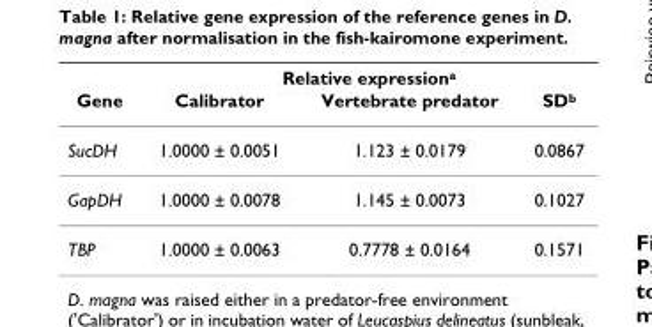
<table><thead><tr><td rowspan="2">Gene</td><td colspan="3">Relative expression<sup>a</sup></td></tr><tr><td>Calibrator</td><td>Vertebrate predator</td><td>SD<sup>b</sup></td></tr></thead><tbody><tr><td>SucDH</td><td>1.0000 ± 0.0051</td><td>1.123 ± 0.0179</td><td>0.0867</td></tr><tr><td>GapDH</td><td>1.0000 ± 0.0078</td><td>1.145 ± 0.0073</td><td>0.1027</td></tr><tr><td>TBP</td><td>1.0000 ± 0.0063</td><td>0.7778 ± 0.0164</td><td>0.1571</td></tr></tbody></table>